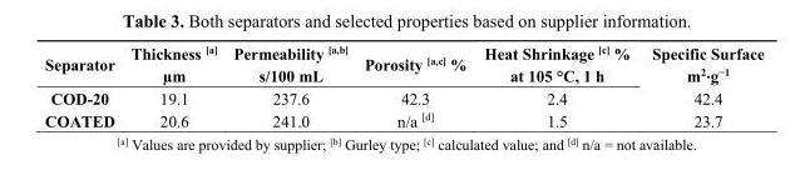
<table><thead><tr><td>Separator</td><td>Thickness <sup>[a]</sup> µm</td><td>Permeability <sup>[a,b]</sup> s/100 mL</td><td>Porosity <sup>[a,c]</sup> %</td><td>Heat Shrinkage <sup>[c]</sup> % at 105 °C, 1 h</td><td>Specific Surface m<sup>2</sup>∙g<sup>−1</sup></td></tr></thead><tbody><tr><td>COD-20</td><td>19.1</td><td>237.6</td><td>42.3</td><td>2.4</td><td>42.4</td></tr><tr><td>COATED</td><td>20.6</td><td>241.0</td><td>n/a <sup>[d]</sup></td><td>1.5</td><td>23.7</td></tr></tbody></table>